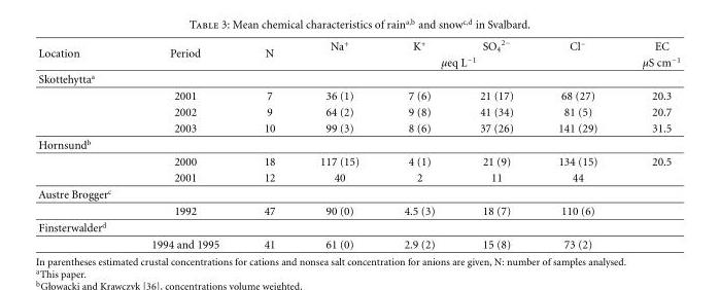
<table><thead><tr><td rowspan="2">Location</td><td rowspan="2">Period</td><td rowspan="2">N</td><td>Na<sup>+</sup></td><td>K<sup>+</sup></td><td>SO<sub>4</sub> <sup>2−</sup></td><td>Cl<sup>−</sup></td><td rowspan="2">EC µS cm<sup>−1</sup></td></tr><tr><td colspan="4">µeq L<sup>−1</sup></td></tr></thead><tbody><tr><td colspan="8">Skottehytta<sup>a</sup></td></tr><tr><td></td><td>2001</td><td>7</td><td>36 (1)</td><td>7 (6)</td><td>21 (17)</td><td>68 (27)</td><td>20.3</td></tr><tr><td></td><td>2002</td><td>9</td><td>64 (2)</td><td>9 (8)</td><td>41 (34)</td><td>81 (5)</td><td>20.7</td></tr><tr><td></td><td>2003</td><td>10</td><td>99 (3)</td><td>8 (6)</td><td>37 (26)</td><td>141 (29)</td><td>31.5</td></tr><tr><td colspan="8">Hornsund<sup>b</sup></td></tr><tr><td></td><td>2000</td><td>18</td><td>117 (15)</td><td>4 (1)</td><td>21 (9)</td><td>134 (15)</td><td>20.5</td></tr><tr><td></td><td>2001</td><td>12</td><td>40</td><td>2</td><td>11</td><td>44</td><td></td></tr><tr><td colspan="8">Austre Brogger<sup>c</sup></td></tr><tr><td></td><td>1992</td><td>47</td><td>90 (0)</td><td>4.5 (3)</td><td>18 (7)</td><td>110 (6)</td><td></td></tr><tr><td colspan="8">Finsterwalder<sup>d</sup></td></tr><tr><td></td><td>1994 and 1995</td><td>41</td><td>61 (0)</td><td>2.9 (2)</td><td>15 (8)</td><td>73 (2)</td><td></td></tr></tbody></table>